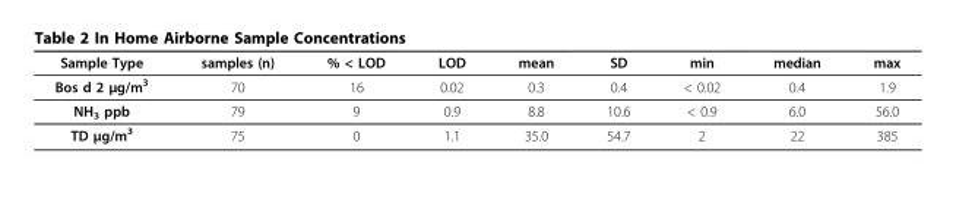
<table><thead><tr><td>Sample Type</td><td>samples (n)</td><td>% &lt; LOD</td><td>LOD</td><td>mean</td><td>SD</td><td>min</td><td>median</td><td>max</td></tr></thead><tbody><tr><td>Bos d 2 μg/m<sup>3</sup></td><td>70</td><td>16</td><td>0.02</td><td>0.3</td><td>0.4</td><td>&lt; 0.02</td><td>0.4</td><td>1.9</td></tr><tr><td>NH<sub>3</sub> ppb</td><td>79</td><td>9</td><td>0.9</td><td>8.8</td><td>10.6</td><td>&lt; 0.9</td><td>6.0</td><td>56.0</td></tr><tr><td>TD μg/m<sup>3</sup></td><td>75</td><td>0</td><td>1.1</td><td>35.0</td><td>54.7</td><td>2</td><td>22</td><td>385</td></tr></tbody></table>